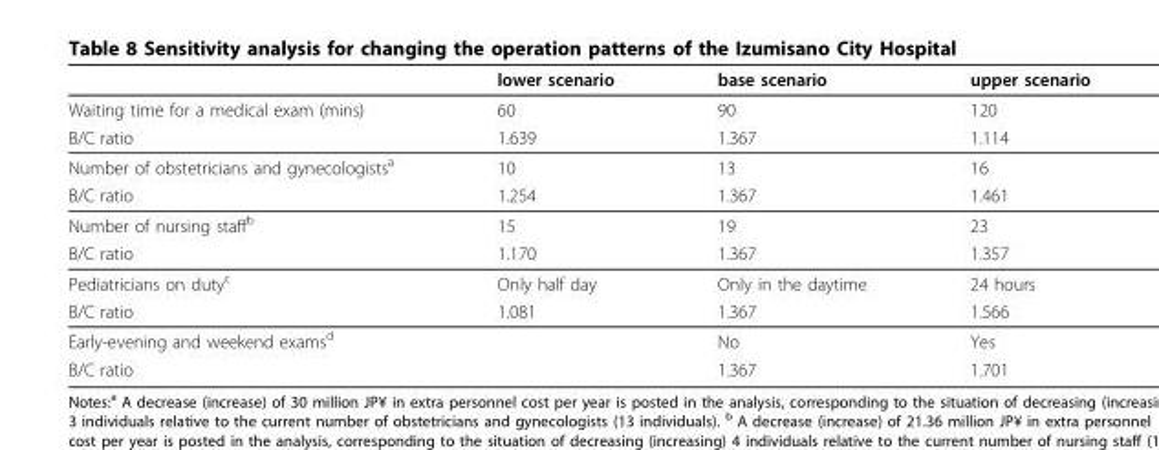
<table><thead><tr><td></td><td>lower scenario</td><td>base scenario</td><td>upper scenario</td></tr></thead><tbody><tr><td>Waiting time for a medical exam (mins)</td><td>60</td><td>90</td><td>120</td></tr><tr><td>B/C ratio</td><td>1.639</td><td>1.367</td><td>1.114</td></tr><tr><td>Number of obstetricians and gynecologists<sup>a</sup></td><td>10</td><td>13</td><td>16</td></tr><tr><td>B/C ratio</td><td>1.254</td><td>1.367</td><td>1.461</td></tr><tr><td>Number of nursing staff<sup>b</sup></td><td>15</td><td>19</td><td>23</td></tr><tr><td>B/C ratio</td><td>1.170</td><td>1.367</td><td>1.357</td></tr><tr><td>Pediatricians on duty<sup>c</sup></td><td>Only half day</td><td>Only in the daytime</td><td>24 hours</td></tr><tr><td>B/C ratio</td><td>1.081</td><td>1.367</td><td>1.566</td></tr><tr><td>Early-evening and weekend exams<sup>d</sup></td><td></td><td>No</td><td>Yes</td></tr><tr><td>B/C ratio</td><td></td><td>1.367</td><td>1.701</td></tr></tbody></table>